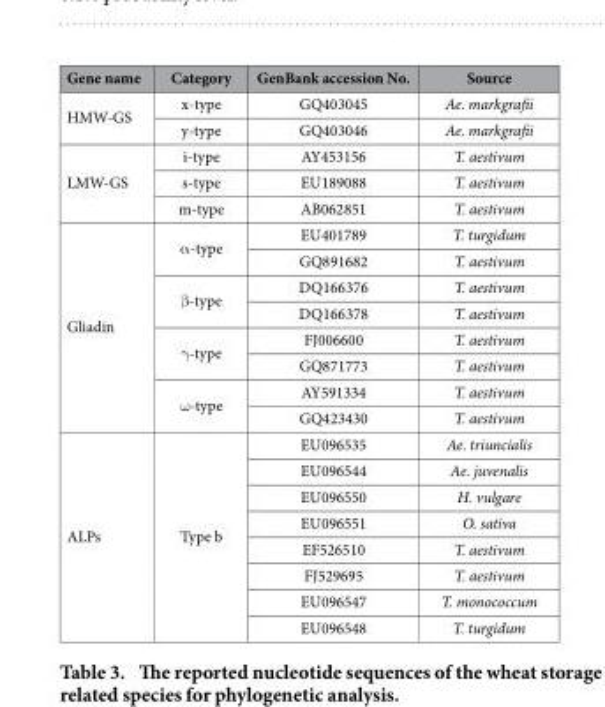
<table><thead><tr><td>Gene name</td><td>Category</td><td>GenBank accession No.</td><td>Source</td></tr></thead><tbody><tr><td rowspan="2">HMW-GS</td><td>x-type</td><td>GQ403045</td><td>Ae. markgrafii</td></tr><tr><td>y-type</td><td>GQ403046</td><td>Ae. markgrafii</td></tr><tr><td rowspan="3">LMW-GS</td><td>i-type</td><td>AY453156</td><td>T. aestivum</td></tr><tr><td>s-type</td><td>EU189088</td><td>T. aestivum</td></tr><tr><td>m-type</td><td>AB062851</td><td>T. aestivum</td></tr><tr><td rowspan="8">Gliadin</td><td rowspan="2">α -type</td><td>EU401789</td><td>T. turgidum</td></tr><tr><td>GQ891682</td><td>T. aestivum</td></tr><tr><td rowspan="2">β -type</td><td>DQ166376</td><td>T. aestivum</td></tr><tr><td>DQ166378</td><td>T. aestivum</td></tr><tr><td rowspan="2">γ -type</td><td>FJ006600</td><td>T. aestivum</td></tr><tr><td>GQ871773</td><td>T. aestivum</td></tr><tr><td rowspan="2">ω -type</td><td>AY591334</td><td>T. aestivum</td></tr><tr><td>GQ423430</td><td>T. aestivum</td></tr><tr><td rowspan="8">ALPs</td><td rowspan="8">Type b</td><td>EU096535</td><td>Ae. triuncialis</td></tr><tr><td>EU096544</td><td>Ae. juvenalis</td></tr><tr><td>EU096550</td><td>H. vulgare</td></tr><tr><td>EU096551</td><td>O. sativa</td></tr><tr><td>EF526510</td><td>T. aestivum</td></tr><tr><td>FJ529695</td><td>T. aestivum</td></tr><tr><td>EU096547</td><td>T. monococcum</td></tr><tr><td>EU096548</td><td>T. turgidum</td></tr></tbody></table>